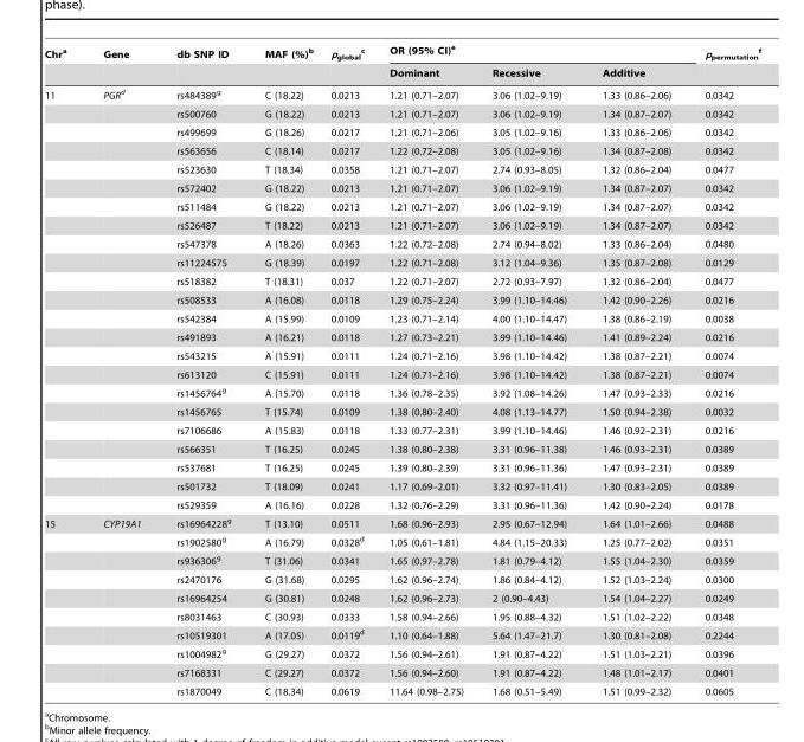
<table><thead><tr><td rowspan="2">Chr<sup>a</sup></td><td rowspan="2">Gene</td><td rowspan="2">db SNP ID</td><td rowspan="2">MAF (%)<sup>b</sup></td><td rowspan="2">p<sub>global</sub> c</td><td colspan="3">OR (95% CI)<sup>e</sup></td><td rowspan="2">ppermutation</td></tr><tr><td>Dominant</td><td>Recessive</td><td>Additive</td></tr></thead><tbody><tr><td rowspan="23">11</td><td>PGRd</td><td>rs484389<sup>g</sup></td><td>C (18.22)</td><td>0.0213</td><td>1.21 (0.71–2.07)</td><td>3.06 (1.02–9.19)</td><td>1.33 (0.86–2.06)</td><td>0.0342</td></tr><tr><td></td><td>rs500760</td><td>G (18.22)</td><td>0.0213</td><td>1.21 (0.71–2.07)</td><td>3.06 (1.02–9.19)</td><td>1.34 (0.87–2.07)</td><td>0.0342</td></tr><tr><td></td><td>rs499699</td><td>G (18.26)</td><td>0.0217</td><td>1.21 (0.71–2.06)</td><td>3.05 (1.02–9.16)</td><td>1.33 (0.86–2.06)</td><td>0.0342</td></tr><tr><td></td><td>rs563656</td><td>C (18.14)</td><td>0.0217</td><td>1.22 (0.72–2.08)</td><td>3.05 (1.02–9.16)</td><td>1.34 (0.87–2.08)</td><td>0.0342</td></tr><tr><td></td><td>rs523630</td><td>T (18.34)</td><td>0.0358</td><td>1.21 (0.71–2.07)</td><td>2.74 (0.93–8.05)</td><td>1.32 (0.86–2.04)</td><td>0.0477</td></tr><tr><td></td><td>rs572402</td><td>G (18.22)</td><td>0.0213</td><td>1.21 (0.71–2.07)</td><td>3.06 (1.02–9.19)</td><td>1.34 (0.87–2.07)</td><td>0.0342</td></tr><tr><td></td><td>rs511484</td><td>G (18.22)</td><td>0.0213</td><td>1.21 (0.71–2.07)</td><td>3.06 (1.02–9.19)</td><td>1.34 (0.87–2.07)</td><td>0.0342</td></tr><tr><td></td><td>rs526487</td><td>T (18.22)</td><td>0.0213</td><td>1.21 (0.71–2.07)</td><td>3.06 (1.02–9.19)</td><td>1.34 (0.87–2.07)</td><td>0.0342</td></tr><tr><td></td><td>rs547378</td><td>A (18.26)</td><td>0.0363</td><td>1.22 (0.72–2.08)</td><td>2.74 (0.94–8.02)</td><td>1.33 (0.86–2.04)</td><td>0.0480</td></tr><tr><td></td><td>rs11224575</td><td>G (18.39)</td><td>0.0197</td><td>1.22 (0.71–2.08)</td><td>3.12 (1.04–9.36)</td><td>1.35 (0.87–2.08)</td><td>0.0129</td></tr><tr><td></td><td>rs518382</td><td>T (18.31)</td><td>0.037</td><td>1.22 (0.71–2.07)</td><td>2.72 (0.93–7.97)</td><td>1.32 (0.86–2.04)</td><td>0.0477</td></tr><tr><td></td><td>rs508533</td><td>A (16.08)</td><td>0.0118</td><td>1.29 (0.75–2.24)</td><td>3.99 (1.10–14.46)</td><td>1.42 (0.90–2.26)</td><td>0.0216</td></tr><tr><td></td><td>rs542384</td><td>A (15.99)</td><td>0.0109</td><td>1.23 (0.71–2.14)</td><td>4.00 (1.10–14.47)</td><td>1.38 (0.86–2.19)</td><td>0.0038</td></tr><tr><td></td><td>rs491893</td><td>A (16.21)</td><td>0.0118</td><td>1.27 (0.73–2.21)</td><td>3.99 (1.10–14.46)</td><td>1.41 (0.89–2.24)</td><td>0.0216</td></tr><tr><td></td><td>rs543215</td><td>A (15.91)</td><td>0.0111</td><td>1.24 (0.71–2.16)</td><td>3.98 (1.10–14.42)</td><td>1.38 (0.87–2.21)</td><td>0.0074</td></tr><tr><td></td><td>rs613120</td><td>C (15.91)</td><td>0.0111</td><td>1.24 (0.71–2.16)</td><td>3.98 (1.10–14.42)</td><td>1.38 (0.87–2.21)</td><td>0.0074</td></tr><tr><td></td><td>rs1456764<sup>g</sup></td><td>A (15.70)</td><td>0.0118</td><td>1.36 (0.78–2.35)</td><td>3.92 (1.08–14.26)</td><td>1.47 (0.93–2.33)</td><td>0.0216</td></tr><tr><td></td><td>rs1456765</td><td>T (15.74)</td><td>0.0109</td><td>1.38 (0.80–2.40)</td><td>4.08 (1.13–14.77)</td><td>1.50 (0.94–2.38)</td><td>0.0032</td></tr><tr><td></td><td>rs7106686</td><td>A (15.83)</td><td>0.0118</td><td>1.33 (0.77–2.31)</td><td>3.99 (1.10–14.46)</td><td>1.46 (0.92–2.31)</td><td>0.0216</td></tr><tr><td></td><td>rs566351</td><td>T (16.25)</td><td>0.0245</td><td>1.38 (0.80–2.38)</td><td>3.31 (0.96–11.38)</td><td>1.46 (0.93–2.31)</td><td>0.0389</td></tr><tr><td></td><td>rs537681</td><td>T (16.25)</td><td>0.0245</td><td>1.39 (0.80–2.39)</td><td>3.31 (0.96–11.36)</td><td>1.47 (0.93–2.31)</td><td>0.0389</td></tr><tr><td></td><td>rs501732</td><td>T (18.09)</td><td>0.0241</td><td>1.17 (0.69–2.01)</td><td>3.32 (0.97–11.41)</td><td>1.30 (0.83–2.05)</td><td>0.0389</td></tr><tr><td></td><td>rs529359</td><td>A (16.16)</td><td>0.0228</td><td>1.32 (0.76–2.29)</td><td>3.31 (0.96–11.36)</td><td>1.42 (0.90–2.24)</td><td>0.0178</td></tr><tr><td rowspan="10">15</td><td>CYP19A1</td><td>rs16964228<sup>g</sup></td><td>T (13.10)</td><td>0.0511</td><td>1.68 (0.96–2.93)</td><td>2.95 (0.67–12.94)</td><td>1.64 (1.01–2.66)</td><td>0.0488</td></tr><tr><td></td><td>rs1902580<sup>g</sup></td><td>A (16.79)</td><td>0.0328<sup>d</sup></td><td>1.05 (0.61–1.81)</td><td>4.84 (1.15–20.33)</td><td>1.25 (0.77–2.02)</td><td>0.0351</td></tr><tr><td></td><td>rs936306<sup>g</sup></td><td>T (31.06)</td><td>0.0341</td><td>1.65 (0.97–2.78)</td><td>1.81 (0.79–4.12)</td><td>1.55 (1.04–2.30)</td><td>0.0359</td></tr><tr><td></td><td>rs2470176</td><td>G (31.68)</td><td>0.0295</td><td>1.62 (0.96–2.74)</td><td>1.86 (0.84–4.12)</td><td>1.52 (1.03–2.24)</td><td>0.0300</td></tr><tr><td></td><td>rs16964254</td><td>G (30.81)</td><td>0.0248</td><td>1.62 (0.96–2.73)</td><td>2 (0.90–4.43)</td><td>1.54 (1.04–2.27)</td><td>0.0249</td></tr><tr><td></td><td>rs8031463</td><td>C (30.93)</td><td>0.0333</td><td>1.58 (0.94–2.66)</td><td>1.95 (0.88–4.32)</td><td>1.51 (1.02–2.22)</td><td>0.0348</td></tr><tr><td></td><td>rs10519301</td><td>A (17.05)</td><td>0.0119<sup>d</sup></td><td>1.10 (0.64–1.88)</td><td>5.64 (1.47–21.7)</td><td>1.30 (0.81–2.08)</td><td>0.2244</td></tr><tr><td></td><td>rs1004982<sup>g</sup></td><td>G (29.27)</td><td>0.0372</td><td>1.56 (0.94–2.61)</td><td>1.91 (0.87–4.22)</td><td>1.51 (1.03–2.21)</td><td>0.0396</td></tr><tr><td></td><td>rs7168331</td><td>C (29.27)</td><td>0.0372</td><td>1.56 (0.94–2.60)</td><td>1.91 (0.87–4.22)</td><td>1.48 (1.01–2.17)</td><td>0.0401</td></tr><tr><td></td><td>rs1870049</td><td>C (18.34)</td><td>0.0619</td><td>11.64 (0.98–2.75)</td><td>1.68 (0.51–5.49)</td><td>1.51 (0.99–2.32)</td><td>0.0605</td></tr></tbody></table>